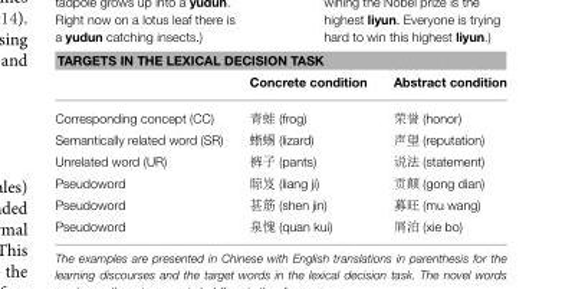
<table><thead><tr><td colspan="3">TARGETS IN THE LEXICAL DECISION TASK</td></tr><tr><td></td><td>Concrete condition</td><td>Abstract condition</td></tr></thead><tbody><tr><td>Corresponding concept (CC)</td><td>青蛙 (frog)</td><td>荣誉 (honor)</td></tr><tr><td>Semantically related word (SR)</td><td>蜥蜴 (lizard)</td><td>声望 (reputation)</td></tr><tr><td>Unrelated word (UR)</td><td>裤子 (pants)</td><td>说法 (statement)</td></tr><tr><td>Pseudoword</td><td>晾岌 (liang ji)</td><td>贡颠 (gong dian)</td></tr><tr><td>Pseudoword</td><td>甚筋 (shen jin)</td><td>募旺 (mu wang)</td></tr><tr><td>Pseudoword</td><td>泉愧 (quan kui)</td><td>屑泊 (xie bo)</td></tr></tbody></table>